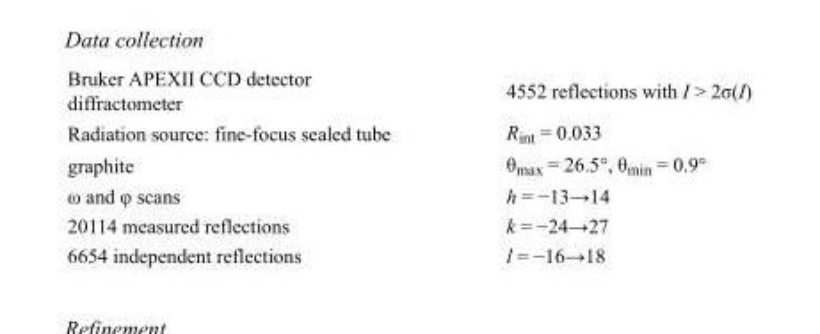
<table><tbody><tr><td>Bruker APEXII CCD detector diffractometer</td><td>4552 reflections with I &gt; 2σ(I)</td></tr><tr><td>Radiation source: fine-focus sealed tube</td><td>R<sub>int</sub> = 0.033</td></tr><tr><td>graphite</td><td>θ<sub>max</sub> = 26.5°, θ<sub>min</sub> = 0.9°</td></tr><tr><td>ω and φ scans</td><td>h = −13→14</td></tr><tr><td>20114 measured reflections</td><td>k = −24→27</td></tr><tr><td>6654 independent reflections</td><td>l = −16→18</td></tr></tbody></table>